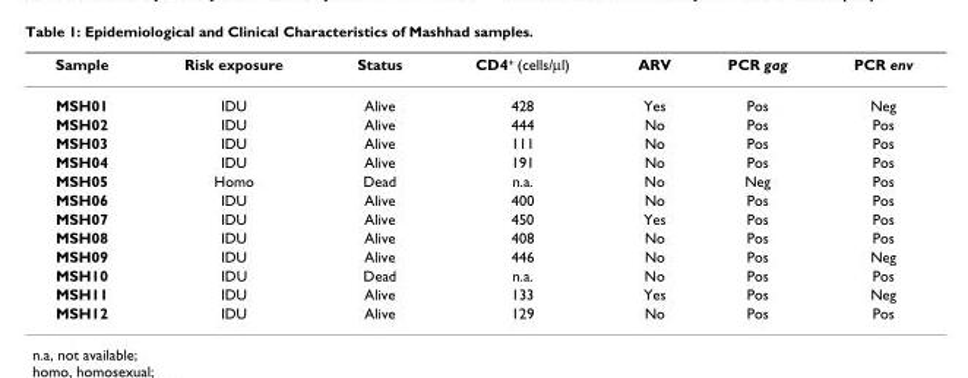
<table><thead><tr><td>Sample</td><td>Risk exposure</td><td>Status</td><td>CD4<sup>+</sup> (cells/μl)</td><td>ARV</td><td>PCR gag</td><td>PCR env</td></tr></thead><tbody><tr><td>MSH01</td><td>IDU</td><td>Alive</td><td>428</td><td>Yes</td><td>Pos</td><td>Neg</td></tr><tr><td>MSH02</td><td>IDU</td><td>Alive</td><td>444</td><td>No</td><td>Pos</td><td>Pos</td></tr><tr><td>MSH03</td><td>IDU</td><td>Alive</td><td>111</td><td>No</td><td>Pos</td><td>Pos</td></tr><tr><td>MSH04</td><td>IDU</td><td>Alive</td><td>191</td><td>No</td><td>Pos</td><td>Pos</td></tr><tr><td>MSH05</td><td>Homo</td><td>Dead</td><td>n.a.</td><td>No</td><td>Neg</td><td>Pos</td></tr><tr><td>MSH06</td><td>IDU</td><td>Alive</td><td>400</td><td>No</td><td>Pos</td><td>Pos</td></tr><tr><td>MSH07</td><td>IDU</td><td>Alive</td><td>450</td><td>Yes</td><td>Pos</td><td>Pos</td></tr><tr><td>MSH08</td><td>IDU</td><td>Alive</td><td>408</td><td>No</td><td>Pos</td><td>Pos</td></tr><tr><td>MSH09</td><td>IDU</td><td>Alive</td><td>446</td><td>No</td><td>Pos</td><td>Neg</td></tr><tr><td>MSH10</td><td>IDU</td><td>Dead</td><td>n.a.</td><td>No</td><td>Pos</td><td>Pos</td></tr><tr><td>MSH11</td><td>IDU</td><td>Alive</td><td>133</td><td>Yes</td><td>Pos</td><td>Neg</td></tr><tr><td>MSH12</td><td>IDU</td><td>Alive</td><td>129</td><td>No</td><td>Pos</td><td>Pos</td></tr></tbody></table>